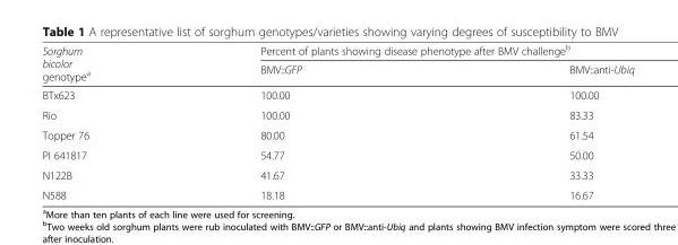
<table><thead><tr><td rowspan="2">Sorghum bicolor genotype<sup>a</sup></td><td colspan="2">Percent of plants showing disease phenotype after BMV challenge<sup>b</sup></td></tr><tr><td>BMV::GFP</td><td>BMV::anti-Ubiq</td></tr></thead><tbody><tr><td>BTx623</td><td>100.00</td><td>100.00</td></tr><tr><td>Rio</td><td>100.00</td><td>83.33</td></tr><tr><td>Topper 76</td><td>80.00</td><td>61.54</td></tr><tr><td>PI 641817</td><td>54.77</td><td>50.00</td></tr><tr><td>N122B</td><td>41.67</td><td>33.33</td></tr><tr><td>N588</td><td>18.18</td><td>16.67</td></tr></tbody></table>